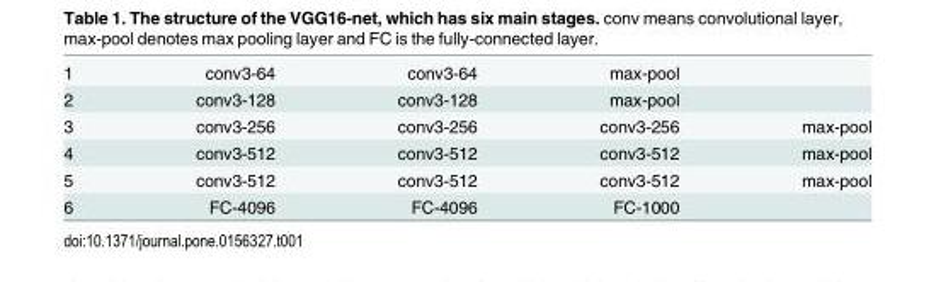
<table><tbody><tr><td>1</td><td>conv3-64</td><td>conv3-64</td><td>max-pool</td><td></td></tr><tr><td>2</td><td>conv3-128</td><td>conv3-128</td><td>max-pool</td><td></td></tr><tr><td>3</td><td>conv3-256</td><td>conv3-256</td><td>conv3-256</td><td>max-pool</td></tr><tr><td>4</td><td>conv3-512</td><td>conv3-512</td><td>conv3-512</td><td>max-pool</td></tr><tr><td>5</td><td>conv3-512</td><td>conv3-512</td><td>conv3-512</td><td>max-pool</td></tr><tr><td>6</td><td>FC-4096</td><td>FC-4096</td><td>FC-1000</td><td></td></tr></tbody></table>